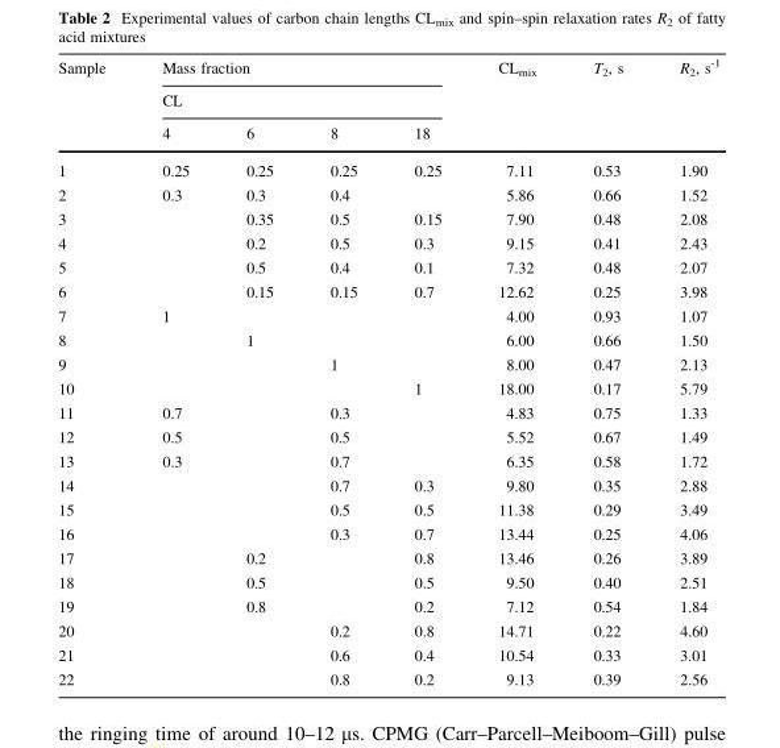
<table><thead><tr><td rowspan="3">Sample</td><td rowspan="2" colspan="4">Mass fraction CL</td><td rowspan="3">CL<sub>mix</sub></td><td rowspan="3">T<sub>2</sub>, s</td><td rowspan="3">R<sub>2</sub>, s<sup>-1</sup></td></tr><tr></tr><tr><td>4</td><td>6</td><td>8</td><td>18</td></tr></thead><tbody><tr><td>1</td><td>0.25</td><td>0.25</td><td>0.25</td><td>0.25</td><td>7.11</td><td>0.53</td><td>1.90</td></tr><tr><td>2</td><td>0.3</td><td>0.3</td><td>0.4</td><td></td><td>5.86</td><td>0.66</td><td>1.52</td></tr><tr><td>3</td><td></td><td>0.35</td><td>0.5</td><td>0.15</td><td>7.90</td><td>0.48</td><td>2.08</td></tr><tr><td>4</td><td></td><td>0.2</td><td>0.5</td><td>0.3</td><td>9.15</td><td>0.41</td><td>2.43</td></tr><tr><td>5</td><td></td><td>0.5</td><td>0.4</td><td>0.1</td><td>7.32</td><td>0.48</td><td>2.07</td></tr><tr><td>6</td><td></td><td>0.15</td><td>0.15</td><td>0.7</td><td>12.62</td><td>0.25</td><td>3.98</td></tr><tr><td>7</td><td>1</td><td></td><td></td><td></td><td>4.00</td><td>0.93</td><td>1.07</td></tr><tr><td>8</td><td></td><td>1</td><td></td><td></td><td>6.00</td><td>0.66</td><td>1.50</td></tr><tr><td>9</td><td></td><td></td><td>1</td><td></td><td>8.00</td><td>0.47</td><td>2.13</td></tr><tr><td>10</td><td></td><td></td><td></td><td>1</td><td>18.00</td><td>0.17</td><td>5.79</td></tr><tr><td>11</td><td>0.7</td><td></td><td>0.3</td><td></td><td>4.83</td><td>0.75</td><td>1.33</td></tr><tr><td>12</td><td>0.5</td><td></td><td>0.5</td><td></td><td>5.52</td><td>0.67</td><td>1.49</td></tr><tr><td>13</td><td>0.3</td><td></td><td>0.7</td><td></td><td>6.35</td><td>0.58</td><td>1.72</td></tr><tr><td>14</td><td></td><td></td><td>0.7</td><td>0.3</td><td>9.80</td><td>0.35</td><td>2.88</td></tr><tr><td>15</td><td></td><td></td><td>0.5</td><td>0.5</td><td>11.38</td><td>0.29</td><td>3.49</td></tr><tr><td>16</td><td></td><td></td><td>0.3</td><td>0.7</td><td>13.44</td><td>0.25</td><td>4.06</td></tr><tr><td>17</td><td></td><td>0.2</td><td></td><td>0.8</td><td>13.46</td><td>0.26</td><td>3.89</td></tr><tr><td>18</td><td></td><td>0.5</td><td></td><td>0.5</td><td>9.50</td><td>0.40</td><td>2.51</td></tr><tr><td>19</td><td></td><td>0.8</td><td></td><td>0.2</td><td>7.12</td><td>0.54</td><td>1.84</td></tr><tr><td>20</td><td></td><td></td><td>0.2</td><td>0.8</td><td>14.71</td><td>0.22</td><td>4.60</td></tr><tr><td>21</td><td></td><td></td><td>0.6</td><td>0.4</td><td>10.54</td><td>0.33</td><td>3.01</td></tr><tr><td>22</td><td></td><td></td><td>0.8</td><td>0.2</td><td>9.13</td><td>0.39</td><td>2.56</td></tr></tbody></table>